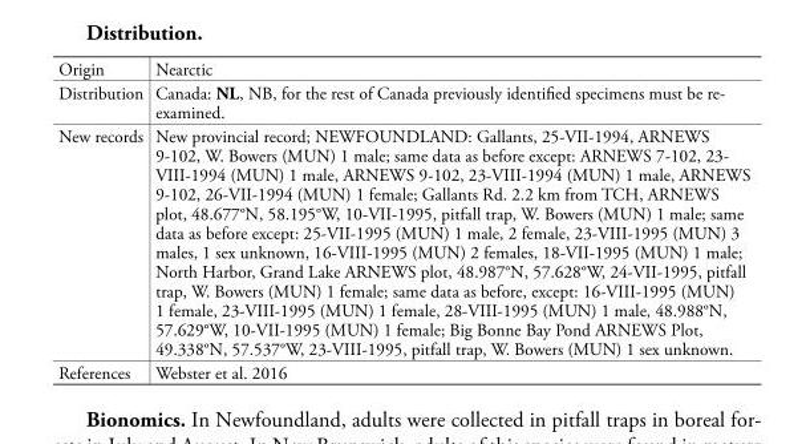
<table><tbody><tr><td>Origin</td><td>Nearctic</td></tr><tr><td>Distribution</td><td>Canada: NL, NB, for the rest of Canada previously identified specimens must be re- examined.</td></tr><tr><td>New records</td><td>New provincial record; NEWFOUNDLAND: Gallants, 25-VII-1994, ARNEWS 9-102, W. Bowers (MUN) 1 male; same data as before except: ARNEWS 7-102, 23- VIII-1994 (MUN) 1 male, ARNEWS 9-102, 23-VIII-1994 (MUN) 1 male, ARNEWS 9-102, 26-VII-1994 (MUN) 1 female; Gallants Rd. 2.2 km from TCH, ARNEWS plot, 48.677°N, 58.195°W, 10-VII-1995, pitfall trap, W. Bowers (MUN) 1 male; same data as before except: 25-VII-1995 (MUN) 1 male, 2 female, 23-VIII-1995 (MUN) 3 males, 1 sex unknown, 16-VIII-1995 (MUN) 2 females, 18-VII-1995 (MUN) 1 male; North Harbor, Grand Lake ARNEWS plot, 48.987°N, 57.628°W, 24-VII-1995, pitfall trap, W. Bowers (MUN) 1 female; same data as before, except: 16-VIII-1995 (MUN) 1 female, 23-VIII-1995 (MUN) 1 female, 28-VIII-1995 (MUN) 1 male, 48.988°N, 57.629°W, 10-VII-1995 (MUN) 1 female; Big Bonne Bay Pond ARNEWS Plot, 49.338°N, 57.537°W, 23-VIII-1995, pitfall trap, W. Bowers (MUN) 1 sex unknown.</td></tr><tr><td>References</td><td>Webster et al. 2016</td></tr></tbody></table>